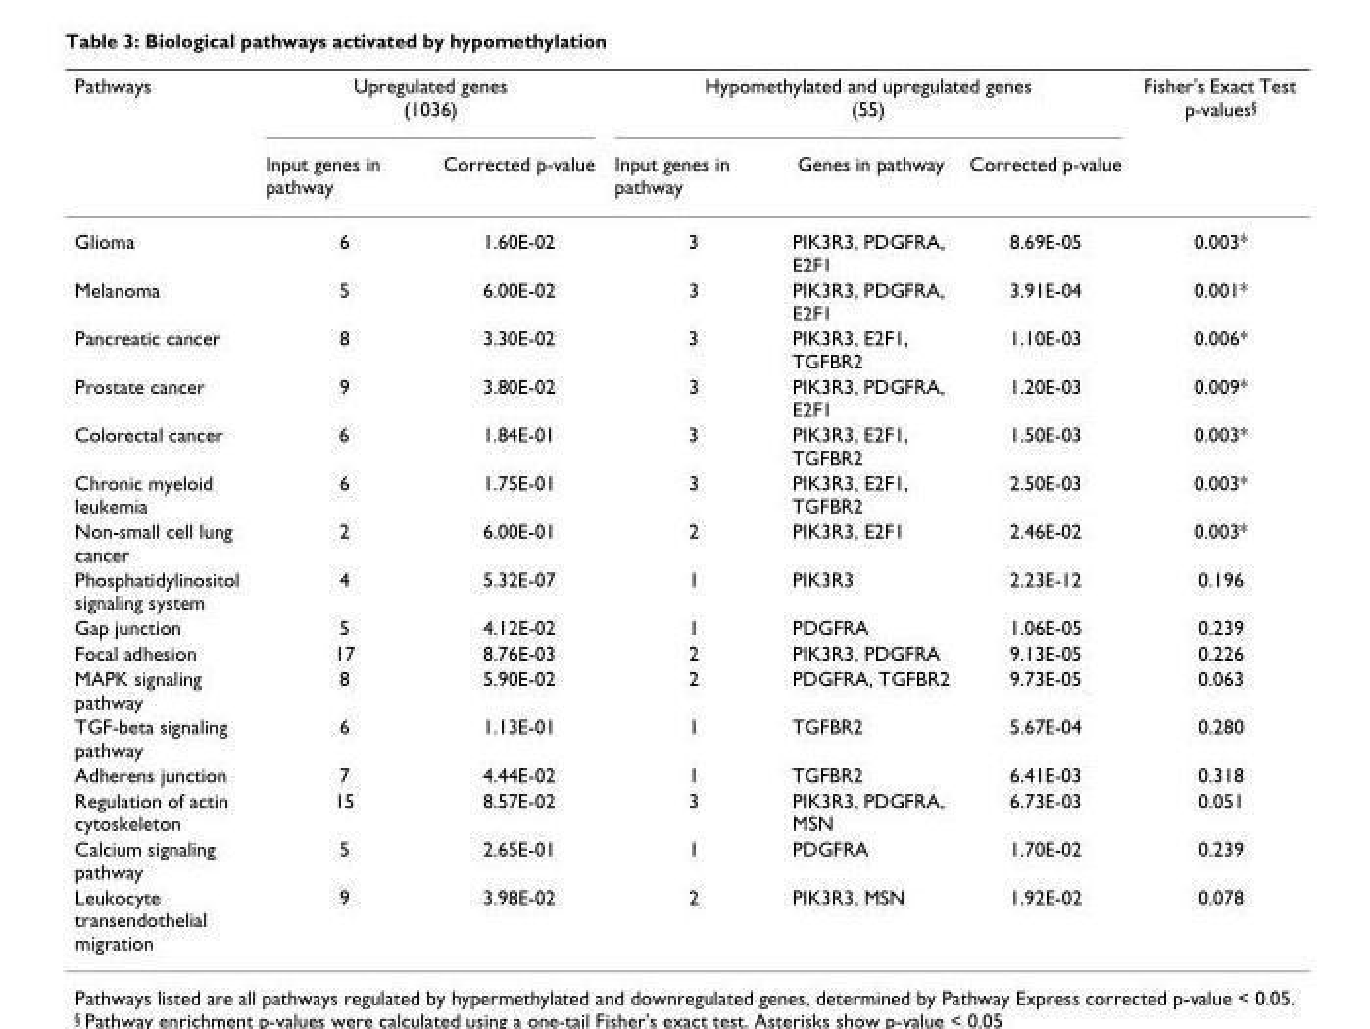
<table><thead><tr><td rowspan="2">Pathways</td><td colspan="2">Upregulated genes (1036)</td><td colspan="3">Hypomethylated and upregulated genes (55)</td><td rowspan="2">Fisher&#x27;s Exact Test p-values<sup>§</sup></td></tr><tr><td>Input genes in pathway</td><td>Corrected p-value</td><td>Input genes in pathway</td><td>Genes in pathway</td><td>Corrected p-value</td></tr></thead><tbody><tr><td>Glioma</td><td>6</td><td>1.60E-02</td><td>3</td><td>PIK3R3, PDGFRA, E2F1</td><td>8.69E-05</td><td>0.003*</td></tr><tr><td>Melanoma</td><td>5</td><td>6.00E-02</td><td>3</td><td>PIK3R3, PDGFRA, E2F1</td><td>3.91E-04</td><td>0.001*</td></tr><tr><td>Pancreatic cancer</td><td>8</td><td>3.30E-02</td><td>3</td><td>PIK3R3, E2F1, TGFBR2</td><td>1.10E-03</td><td>0.006*</td></tr><tr><td>Prostate cancer</td><td>9</td><td>3.80E-02</td><td>3</td><td>PIK3R3, PDGFRA, E2F1</td><td>1.20E-03</td><td>0.009*</td></tr><tr><td>Colorectal cancer</td><td>6</td><td>1.84E-01</td><td>3</td><td>PIK3R3, E2F1, TGFBR2</td><td>1.50E-03</td><td>0.003*</td></tr><tr><td>Chronic myeloid leukemia</td><td>6</td><td>1.75E-01</td><td>3</td><td>PIK3R3, E2F1, TGFBR2</td><td>2.50E-03</td><td>0.003*</td></tr><tr><td>Non-small cell lung cancer</td><td>2</td><td>6.00E-01</td><td>2</td><td>PIK3R3, E2F1</td><td>2.46E-02</td><td>0.003*</td></tr><tr><td>Phosphatidylinositol signaling system</td><td>4</td><td>5.32E-07</td><td>1</td><td>PIK3R3</td><td>2.23E-12</td><td>0.196</td></tr><tr><td>Gap junction</td><td>5</td><td>4.12E-02</td><td>1</td><td>PDGFRA</td><td>1.06E-05</td><td>0.239</td></tr><tr><td>Focal adhesion</td><td>17</td><td>8.76E-03</td><td>2</td><td>PIK3R3, PDGFRA</td><td>9.13E-05</td><td>0.226</td></tr><tr><td>MAPK signaling pathway</td><td>8</td><td>5.90E-02</td><td>2</td><td>PDGFRA, TGFBR2</td><td>9.73E-05</td><td>0.063</td></tr><tr><td>TGF-beta signaling pathway</td><td>6</td><td>1.13E-01</td><td>1</td><td>TGFBR2</td><td>5.67E-04</td><td>0.280</td></tr><tr><td>Adherens junction</td><td>7</td><td>4.44E-02</td><td>1</td><td>TGFBR2</td><td>6.41E-03</td><td>0.318</td></tr><tr><td>Regulation of actin cytoskeleton</td><td>15</td><td>8.57E-02</td><td>3</td><td>PIK3R3, PDGFRA, MSN</td><td>6.73E-03</td><td>0.051</td></tr><tr><td>Calcium signaling pathway</td><td>5</td><td>2.65E-01</td><td>1</td><td>PDGFRA</td><td>1.70E-02</td><td>0.239</td></tr><tr><td>Leukocyte transendothelial migration</td><td>9</td><td>3.98E-02</td><td>2</td><td>PIK3R3, MSN</td><td>1.92E-02</td><td>0.078</td></tr></tbody></table>